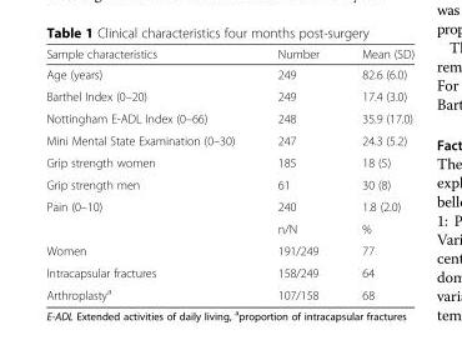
<table><thead><tr><td>Sample characteristics</td><td>Number</td><td>Mean (SD)</td></tr></thead><tbody><tr><td>Age (years)</td><td>249</td><td>82.6 (6.0)</td></tr><tr><td>Barthel Index (0–20)</td><td>249</td><td>17.4 (3.0)</td></tr><tr><td>Nottingham E-ADL Index (0–66)</td><td>248</td><td>35.9 (17.0)</td></tr><tr><td>Mini Mental State Examination (0–30)</td><td>247</td><td>24.3 (5.2)</td></tr><tr><td>Grip strength women</td><td>185</td><td>18 (5)</td></tr><tr><td>Grip strength men</td><td>61</td><td>30 (8)</td></tr><tr><td rowspan="2">Pain (0–10)</td><td>240</td><td>1.8 (2.0)</td></tr><tr><td>n/N</td><td>%</td></tr><tr><td>Women</td><td>191/249</td><td>77</td></tr><tr><td>Intracapsular fractures</td><td>158/249</td><td>64</td></tr><tr><td>Arthroplasty<sup>a</sup></td><td>107/158</td><td>68</td></tr></tbody></table>